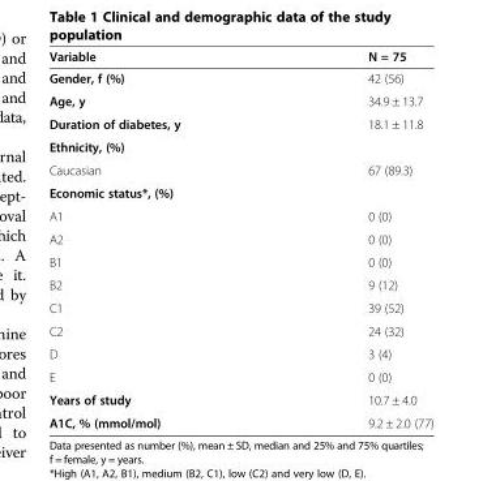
<table><thead><tr><td>Variable</td><td>N = 75</td></tr></thead><tbody><tr><td>Gender, f (%)</td><td>42 (56)</td></tr><tr><td>Age, y</td><td>34.9 ± 13.7</td></tr><tr><td>Duration of diabetes, y</td><td>18.1 ± 11.8</td></tr><tr><td colspan="2">Ethnicity, (%)</td></tr><tr><td>Caucasian</td><td>67 (89.3)</td></tr><tr><td colspan="2">Economic status*, (%)</td></tr><tr><td>A1</td><td>0 (0)</td></tr><tr><td>A2</td><td>0 (0)</td></tr><tr><td>B1</td><td>0 (0)</td></tr><tr><td>B2</td><td>9 (12)</td></tr><tr><td>C1</td><td>39 (52)</td></tr><tr><td>C2</td><td>24 (32)</td></tr><tr><td>D</td><td>3 (4)</td></tr><tr><td>E</td><td>0 (0)</td></tr><tr><td>Years of study</td><td>10.7 ± 4.0</td></tr><tr><td>A1C, % (mmol/mol)</td><td>9.2 ± 2.0 (77)</td></tr></tbody></table>